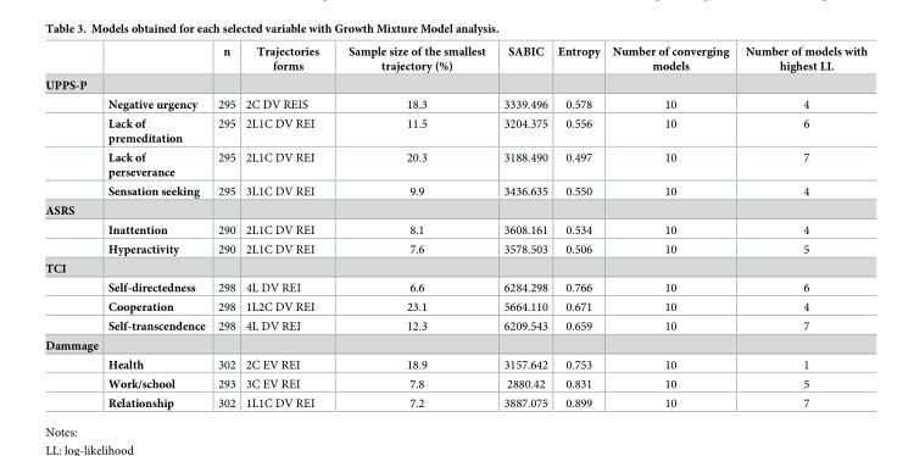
<table><thead><tr><td></td><td></td><td>n</td><td>Trajectories forms</td><td>Sample size of the smallest trajectory (%)</td><td>SABIC</td><td>Entropy</td><td>Number of converging models</td><td>Number of models with highest LL</td></tr></thead><tbody><tr><td colspan="9">UPPS-P</td></tr><tr><td></td><td>Negative urgency</td><td>295</td><td>2C DV REIS</td><td>18.3</td><td>3339.496</td><td>0.578</td><td>10</td><td>4</td></tr><tr><td></td><td>Lack of premeditation</td><td>295</td><td>2L1C DV REI</td><td>11.5</td><td>3204.375</td><td>0.556</td><td>10</td><td>6</td></tr><tr><td></td><td>Lack of perseverance</td><td>295</td><td>2L1C DV REI</td><td>20.3</td><td>3188.490</td><td>0.497</td><td>10</td><td>7</td></tr><tr><td></td><td>Sensation seeking</td><td>295</td><td>3L1C DV REI</td><td>9.9</td><td>3436.635</td><td>0.550</td><td>10</td><td>4</td></tr><tr><td colspan="9">ASRS</td></tr><tr><td></td><td>Inattention</td><td>290</td><td>2L1C DV REI</td><td>8.1</td><td>3608.161</td><td>0.534</td><td>10</td><td>4</td></tr><tr><td></td><td>Hyperactivity</td><td>290</td><td>2L1C DV REI</td><td>7.6</td><td>3578.503</td><td>0.506</td><td>10</td><td>5</td></tr><tr><td colspan="9">TCI</td></tr><tr><td></td><td>Self-directedness</td><td>298</td><td>4L DV REI</td><td>6.6</td><td>6284.298</td><td>0.766</td><td>10</td><td>6</td></tr><tr><td></td><td>Cooperation</td><td>298</td><td>1L2C DV REI</td><td>23.1</td><td>5664.110</td><td>0.671</td><td>10</td><td>4</td></tr><tr><td></td><td>Self-transcendence</td><td>298</td><td>4L DV REI</td><td>12.3</td><td>6209.543</td><td>0.659</td><td>10</td><td>7</td></tr><tr><td colspan="9">Dammage</td></tr><tr><td></td><td>Health</td><td>302</td><td>2C EV REI</td><td>18.9</td><td>3157.642</td><td>0.753</td><td>10</td><td>1</td></tr><tr><td></td><td>Work/school</td><td>293</td><td>3C EV REI</td><td>7.8</td><td>2880.42</td><td>0.831</td><td>10</td><td>5</td></tr><tr><td></td><td>Relationship</td><td>302</td><td>1L1C DV REI</td><td>7.2</td><td>3887.075</td><td>0.899</td><td>10</td><td>7</td></tr></tbody></table>